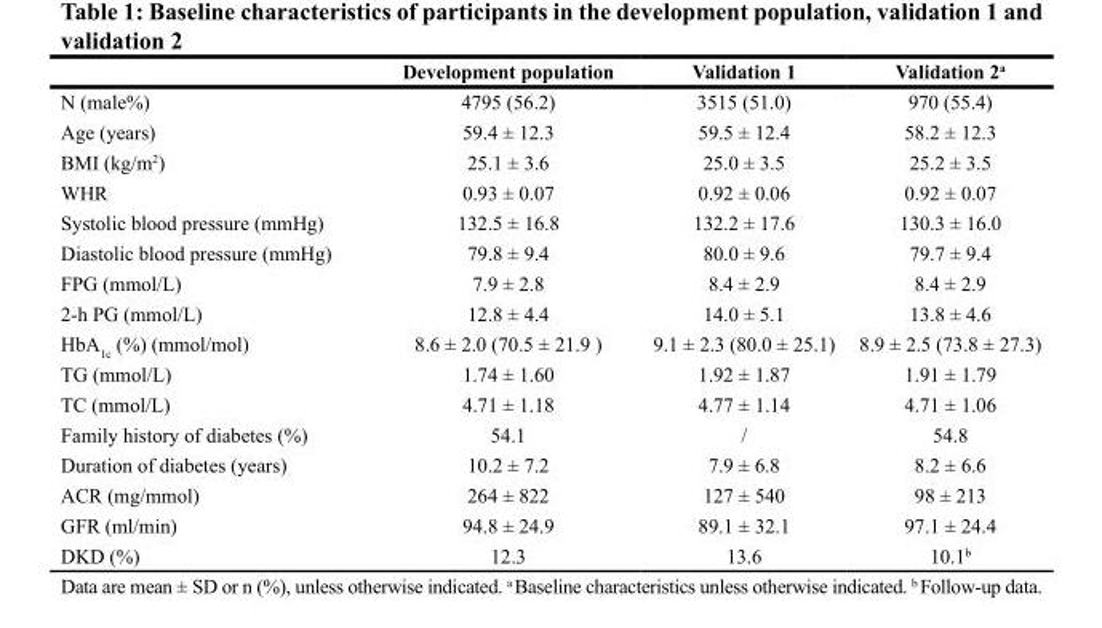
<table><thead><tr><td></td><td>Development population</td><td>Validation 1</td><td>Validation 2<sup>a</sup></td></tr></thead><tbody><tr><td>N (male%)</td><td>4795 (56.2)</td><td>3515 (51.0)</td><td>970 (55.4)</td></tr><tr><td>Age (years)</td><td>59.4 ± 12.3</td><td>59.5 ± 12.4</td><td>58.2 ± 12.3</td></tr><tr><td>BMI (kg/m<sup>2</sup>)</td><td>25.1 ± 3.6</td><td>25.0 ± 3.5</td><td>25.2 ± 3.5</td></tr><tr><td>WHR</td><td>0.93 ± 0.07</td><td>0.92 ± 0.06</td><td>0.92 ± 0.07</td></tr><tr><td>Systolic blood pressure (mmHg)</td><td>132.5 ± 16.8</td><td>132.2 ± 17.6</td><td>130.3 ± 16.0</td></tr><tr><td>Diastolic blood pressure (mmHg)</td><td>79.8 ± 9.4</td><td>80.0 ± 9.6</td><td>79.7 ± 9.4</td></tr><tr><td>FPG (mmol/L)</td><td>7.9 ± 2.8</td><td>8.4 ± 2.9</td><td>8.4 ± 2.9</td></tr><tr><td>2-h PG (mmol/L)</td><td>12.8 ± 4.4</td><td>14.0 ± 5.1</td><td>13.8 ± 4.6</td></tr><tr><td>HbA<sub>1c</sub> (%) (mmol/mol)</td><td>8.6 ± 2.0 (70.5 ± 21.9 )</td><td>9.1 ± 2.3 (80.0 ± 25.1)</td><td>8.9 ± 2.5 (73.8 ± 27.3)</td></tr><tr><td>TG (mmol/L)</td><td>1.74 ± 1.60</td><td>1.92 ± 1.87</td><td>1.91 ± 1.79</td></tr><tr><td>TC (mmol/L)</td><td>4.71 ± 1.18</td><td>4.77 ± 1.14</td><td>4.71 ± 1.06</td></tr><tr><td>Family history of diabetes (%)</td><td>54.1</td><td>/</td><td>54.8</td></tr><tr><td>Duration of diabetes (years)</td><td>10.2 ± 7.2</td><td>7.9 ± 6.8</td><td>8.2 ± 6.6</td></tr><tr><td>ACR (mg/mmol)</td><td>264 ± 822</td><td>127 ± 540</td><td>98 ± 213</td></tr><tr><td>GFR (ml/min)</td><td>94.8 ± 24.9</td><td>89.1 ± 32.1</td><td>97.1 ± 24.4</td></tr><tr><td>DKD (%)</td><td>12.3</td><td>13.6</td><td>10.1<sup>b</sup></td></tr></tbody></table>